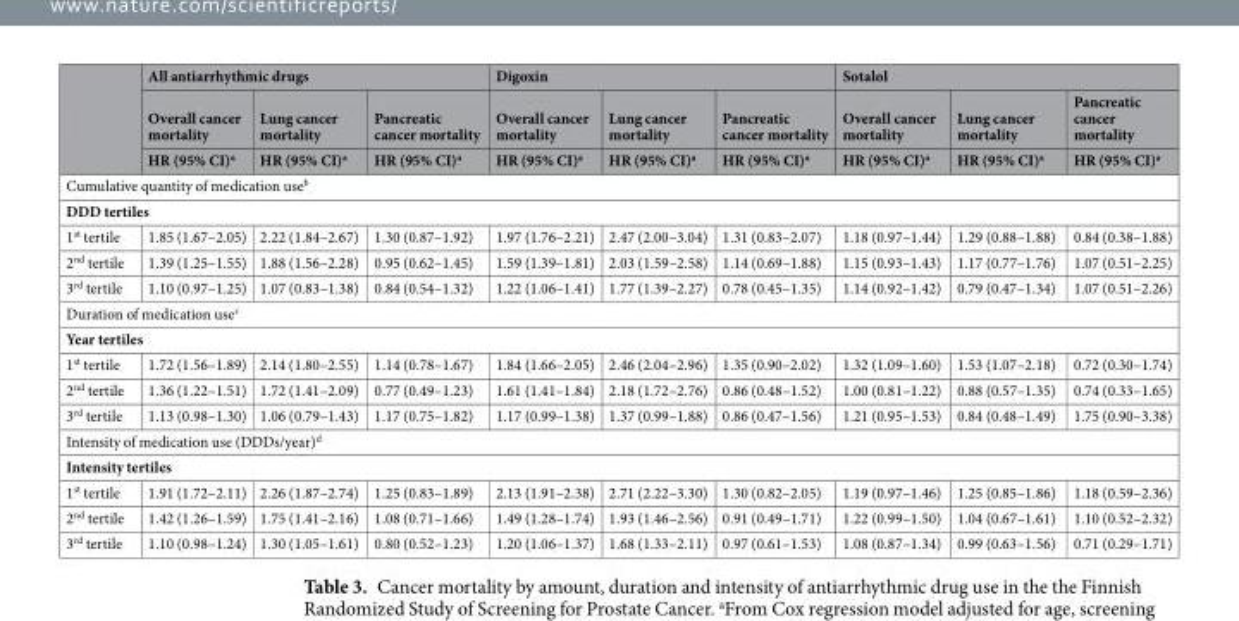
<table><thead><tr><td rowspan="3"></td><td colspan="3">All antiarrhythmic drugs</td><td colspan="3">Digoxin</td><td colspan="3">Sotalol</td></tr><tr><td rowspan="2">Overall cancer mortality HR (95% CI)<sup>a</sup></td><td rowspan="2">Lung cancer mortality HR (95% CI)<sup>a</sup></td><td rowspan="2">Pancreatic cancer mortality HR (95% CI)<sup>a</sup></td><td rowspan="2">Overall cancer mortality HR (95% CI)<sup>a</sup></td><td rowspan="2">Lung cancer mortality HR (95% CI)<sup>a</sup></td><td rowspan="2">Pancreatic cancer mortality HR (95% CI)<sup>a</sup></td><td rowspan="2">Overall cancer mortality HR (95% CI)<sup>a</sup></td><td rowspan="2">Lung cancer mortality HR (95% CI)<sup>a</sup></td><td rowspan="2">Pancreatic cancer mortality HR (95% CI)<sup>a</sup></td></tr><tr></tr></thead><tbody><tr><td colspan="10">Cumulative quantity of medication use<sup>b</sup></td></tr><tr><td colspan="10">DDD tertiles</td></tr><tr><td>1<sup>st</sup> tertile</td><td>1.85 (1.67–2.05)</td><td>2.22 (1.84–2.67)</td><td>1.30 (0.87–1.92)</td><td>1.97 (1.76–2.21)</td><td>2.47 (2.00–3.04)</td><td>1.31 (0.83–2.07)</td><td>1.18 (0.97–1.44)</td><td>1.29 (0.88–1.88)</td><td>0.84 (0.38–1.88)</td></tr><tr><td>2<sup>nd</sup> tertile</td><td>1.39 (1.25–1.55)</td><td>1.88 (1.56–2.28)</td><td>0.95 (0.62–1.45)</td><td>1.59 (1.39–1.81)</td><td>2.03 (1.59–2.58)</td><td>1.14 (0.69–1.88)</td><td>1.15 (0.93–1.43)</td><td>1.17 (0.77–1.76)</td><td>1.07 (0.51–2.25)</td></tr><tr><td>3<sup>rd</sup> tertile</td><td>1.10 (0.97–1.25)</td><td>1.07 (0.83–1.38)</td><td>0.84 (0.54–1.32)</td><td>1.22 (1.06–1.41)</td><td>1.77 (1.39–2.27)</td><td>0.78 (0.45–1.35)</td><td>1.14 (0.92–1.42)</td><td>0.79 (0.47–1.34)</td><td>1.07 (0.51–2.26)</td></tr><tr><td colspan="10">Duration of medication use<sup>c</sup></td></tr><tr><td colspan="10">Year tertiles</td></tr><tr><td>1<sup>st</sup> tertile</td><td>1.72 (1.56–1.89)</td><td>2.14 (1.80–2.55)</td><td>1.14 (0.78–1.67)</td><td>1.84 (1.66–2.05)</td><td>2.46 (2.04–2.96)</td><td>1.35 (0.90–2.02)</td><td>1.32 (1.09–1.60)</td><td>1.53 (1.07–2.18)</td><td>0.72 (0.30–1.74)</td></tr><tr><td>2<sup>nd</sup> tertile</td><td>1.36 (1.22–1.51)</td><td>1.72 (1.41–2.09)</td><td>0.77 (0.49–1.23)</td><td>1.61 (1.41–1.84)</td><td>2.18 (1.72–2.76)</td><td>0.86 (0.48–1.52)</td><td>1.00 (0.81–1.22)</td><td>0.88 (0.57–1.35)</td><td>0.74 (0.33–1.65)</td></tr><tr><td>3<sup>rd</sup> tertile</td><td>1.13 (0.98–1.30)</td><td>1.06 (0.79–1.43)</td><td>1.17 (0.75–1.82)</td><td>1.17 (0.99–1.38)</td><td>1.37 (0.99–1.88)</td><td>0.86 (0.47–1.56)</td><td>1.21 (0.95–1.53)</td><td>0.84 (0.48–1.49)</td><td>1.75 (0.90–3.38)</td></tr><tr><td colspan="10">Intensity of medication use (DDDs/year)<sup>d</sup></td></tr><tr><td colspan="10">Intensity tertiles</td></tr><tr><td>1<sup>st</sup> tertile</td><td>1.91 (1.72–2.11)</td><td>2.26 (1.87–2.74)</td><td>1.25 (0.83–1.89)</td><td>2.13 (1.91–2.38)</td><td>2.71 (2.22–3.30)</td><td>1.30 (0.82–2.05)</td><td>1.19 (0.97–1.46)</td><td>1.25 (0.85–1.86)</td><td>1.18 (0.59–2.36)</td></tr><tr><td>2<sup>nd</sup> tertile</td><td>1.42 (1.26–1.59)</td><td>1.75 (1.41–2.16)</td><td>1.08 (0.71–1.66)</td><td>1.49 (1.28–1.74)</td><td>1.93 (1.46–2.56)</td><td>0.91 (0.49–1.71)</td><td>1.22 (0.99–1.50)</td><td>1.04 (0.67–1.61)</td><td>1.10 (0.52–2.32)</td></tr><tr><td>3<sup>rd</sup> tertile</td><td>1.10 (0.98–1.24)</td><td>1.30 (1.05–1.61)</td><td>0.80 (0.52–1.23)</td><td>1.20 (1.06–1.37)</td><td>1.68 (1.33–2.11)</td><td>0.97 (0.61–1.53)</td><td>1.08 (0.87–1.34)</td><td>0.99 (0.63–1.56)</td><td>0.71 (0.29–1.71)</td></tr></tbody></table>